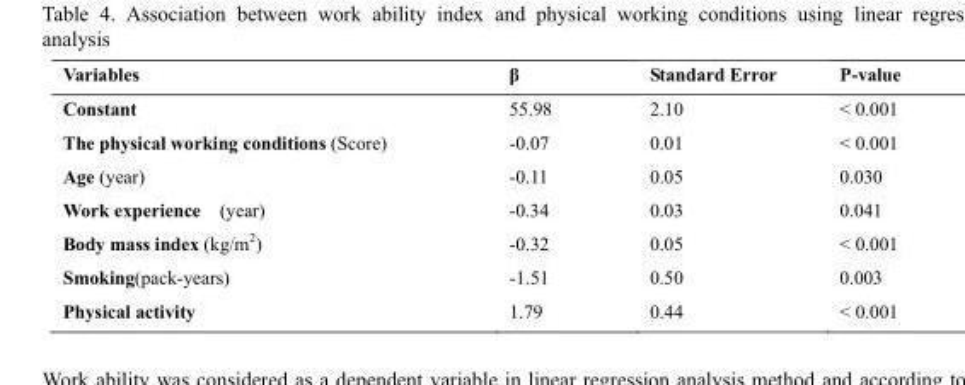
<table><thead><tr><td>Variables</td><td>β</td><td>Standard Error</td><td>P-value</td></tr></thead><tbody><tr><td>Constant</td><td>55.98</td><td>2.10</td><td>&lt; 0.001</td></tr><tr><td>The physical working conditions (Score)</td><td>-0.07</td><td>0.01</td><td>&lt; 0.001</td></tr><tr><td>Age (year)</td><td>-0.11</td><td>0.05</td><td>0.030</td></tr><tr><td>Work experience (year)</td><td>-0.34</td><td>0.03</td><td>0.041</td></tr><tr><td>Body mass index (kg/m<sup>2</sup>)</td><td>-0.32</td><td>0.05</td><td>&lt; 0.001</td></tr><tr><td>Smoking(pack-years)</td><td>-1.51</td><td>0.50</td><td>0.003</td></tr><tr><td>Physical activity</td><td>1.79</td><td>0.44</td><td>&lt; 0.001</td></tr></tbody></table>